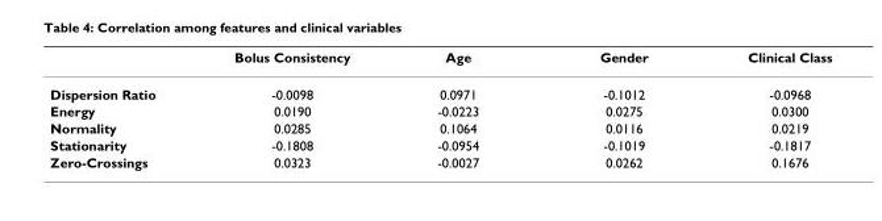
<table><thead><tr><td></td><td>Bolus Consistency</td><td>Age</td><td>Gender</td><td>Clinical Class</td></tr></thead><tbody><tr><td>Dispersion Ratio</td><td>-0.0098</td><td>0.0971</td><td>-0.1012</td><td>-0.0968</td></tr><tr><td>Energy</td><td>0.0190</td><td>-0.0223</td><td>0.0275</td><td>0.0300</td></tr><tr><td>Normality</td><td>0.0285</td><td>0.1064</td><td>0.0116</td><td>0.0219</td></tr><tr><td>Stationarity</td><td>-0.1808</td><td>-0.0954</td><td>-0.1019</td><td>-0.1817</td></tr><tr><td>Zero-Crossings</td><td>0.0323</td><td>-0.0027</td><td>0.0262</td><td>0.1676</td></tr></tbody></table>